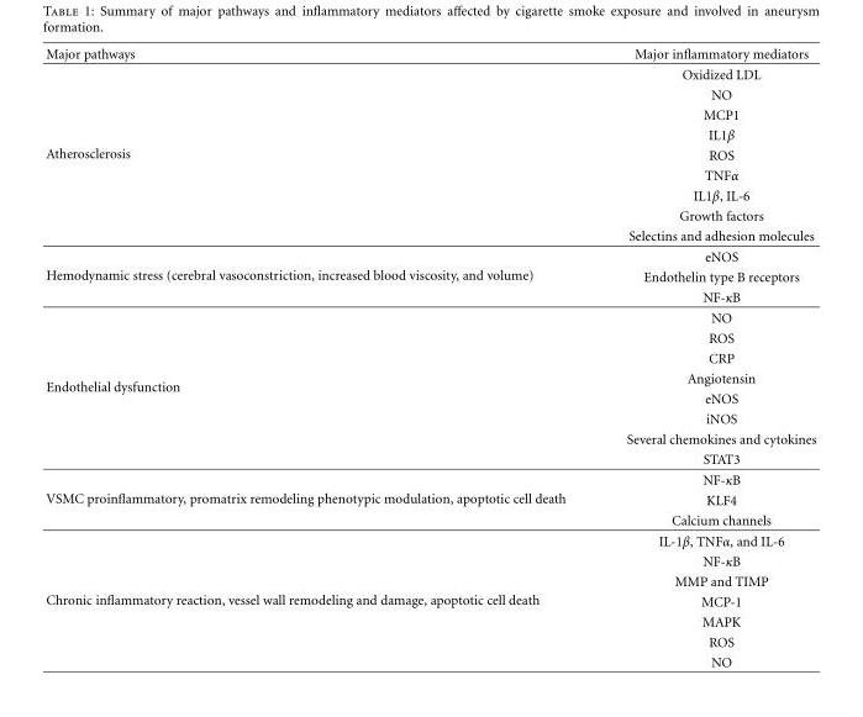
<table><thead><tr><td>Major pathways</td><td>Major inflammatory mediators</td></tr></thead><tbody><tr><td rowspan="9">Atherosclerosis</td><td>Oxidized LDL</td></tr><tr><td>NO</td></tr><tr><td>MCP1</td></tr><tr><td>IL1β</td></tr><tr><td>ROS</td></tr><tr><td>TNFα</td></tr><tr><td>IL1β, IL-6</td></tr><tr><td>Growth factors</td></tr><tr><td>Selectins and adhesion molecules</td></tr><tr><td rowspan="3">Hemodynamic stress (cerebral vasoconstriction, increased blood viscosity, and volume)</td><td>eNOS</td></tr><tr><td>Endothelin type B receptors</td></tr><tr><td>NF-κB</td></tr><tr><td rowspan="8">Endothelial dysfunction</td><td>NO</td></tr><tr><td>ROS</td></tr><tr><td>CRP</td></tr><tr><td>Angiotensin</td></tr><tr><td>eNOS</td></tr><tr><td>iNOS</td></tr><tr><td>Several chemokines and cytokines</td></tr><tr><td>STAT3</td></tr><tr><td rowspan="3">VSMC proinflammatory, promatrix remodeling phenotypic modulation, apoptotic cell death</td><td>NF-κB</td></tr><tr><td>KLF4</td></tr><tr><td>Calcium channels</td></tr><tr><td rowspan="7">Chronic inflammatory reaction, vessel wall remodeling and damage, apoptotic cell death</td><td>IL-1β, TNFα, and IL-6</td></tr><tr><td>NF-κB</td></tr><tr><td>MMP and TIMP</td></tr><tr><td>MCP-1</td></tr><tr><td>MAPK</td></tr><tr><td>ROS</td></tr><tr><td>NO</td></tr></tbody></table>